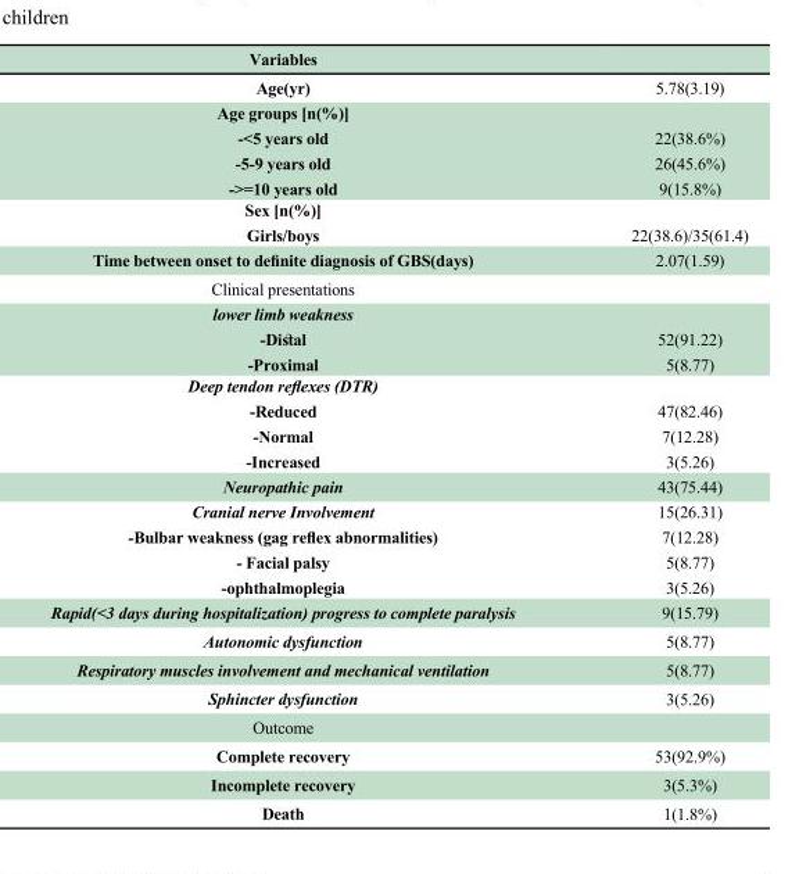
<table><thead><tr><td>Variables</td><td></td></tr></thead><tbody><tr><td>Age(yr)</td><td>5.78(3.19)</td></tr><tr><td colspan="2">Age groups [n(%)]</td></tr><tr><td>-&lt;5 years old -5-9 years old -&gt;=10 years old</td><td>22(38.6%) 26(45.6%) 9(15.8%)</td></tr><tr><td>Sex [n(%)] Girls/boys</td><td>22(38.6)/35(61.4)</td></tr><tr><td>Time between onset to definite diagnosis of GBS(days)</td><td>2.07(1.59)</td></tr><tr><td colspan="2">Clinical presentations</td></tr><tr><td colspan="2">lower limb weakness</td></tr><tr><td>-Distal -Proximal</td><td>52(91.22) 5(8.77)</td></tr><tr><td colspan="2">Deep tendon reflexes (DTR)</td></tr><tr><td>-Reduced -Normal -Increased</td><td>47(82.46) 7(12.28) 3(5.26)</td></tr><tr><td>Neuropathic pain</td><td>43(75.44)</td></tr><tr><td>Cranial nerve Involvement -Bulbar weakness (gag reflex abnormalities) - Facial palsy -ophthalmoplegia</td><td>15(26.31) 7(12.28) 5(8.77) 3(5.26)</td></tr><tr><td>Rapid(&lt;3 days during hospitalization) progress to complete paralysis</td><td>9(15.79)</td></tr><tr><td>Autonomic dysfunction</td><td>5(8.77)</td></tr><tr><td>Respiratory muscles involvement and mechanical ventilation</td><td>5(8.77)</td></tr><tr><td>Sphincter dysfunction</td><td>3(5.26)</td></tr><tr><td colspan="2">Outcome</td></tr><tr><td>Complete recovery</td><td>53(92.9%)</td></tr><tr><td>Incomplete recovery</td><td>3(5.3%)</td></tr><tr><td>Death</td><td>1(1.8%)</td></tr></tbody></table>